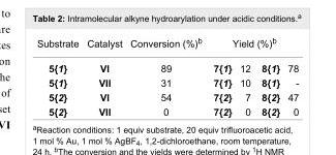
<table><tbody><tr><td>Substrate</td><td>Catalyst</td><td>Conversion (%)<sup>b</sup></td><td colspan="4">Yield (%)<sup>b</sup></td></tr><tr><td>5{1}</td><td>VI</td><td>89</td><td>7{1}</td><td>12</td><td>8{1}</td><td>78</td></tr><tr><td>5{1}</td><td>VII</td><td>31</td><td>7{1}</td><td>10</td><td>8{1}</td><td>-</td></tr><tr><td>5{2}</td><td>VI</td><td>54</td><td>7{2}</td><td>7</td><td>8{2}</td><td>47</td></tr><tr><td>5{2}</td><td>VII</td><td>0</td><td>7{2}</td><td>0</td><td>8{2}</td><td>0</td></tr></tbody></table>